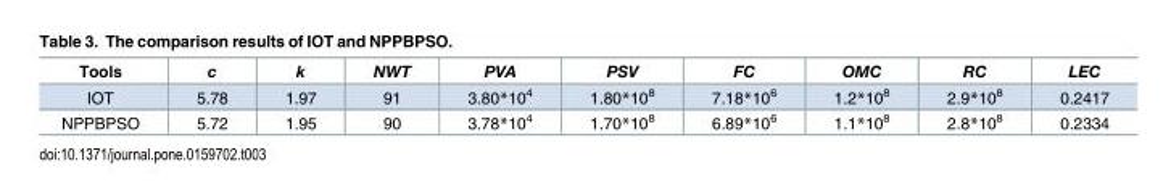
<table><thead><tr><td>Tools</td><td>c</td><td>k</td><td>NWT</td><td>PVA</td><td>PSV</td><td>FC</td><td>OMC</td><td>RC</td><td>LEC</td></tr></thead><tbody><tr><td>IOT</td><td>5.78</td><td>1.97</td><td>91</td><td>3.80*10<sup>4</sup></td><td>1.80*10<sup>8</sup></td><td>7.18*10<sup>6</sup></td><td>1.2*10<sup>8</sup></td><td>2.9*10<sup>8</sup></td><td>0.2417</td></tr><tr><td>NPPBPSO</td><td>5.72</td><td>1.95</td><td>90</td><td>3.78*10<sup>4</sup></td><td>1.70*10<sup>8</sup></td><td>6.89*10<sup>6</sup></td><td>1.1*10<sup>8</sup></td><td>2.8*10<sup>8</sup></td><td>0.2334</td></tr></tbody></table>